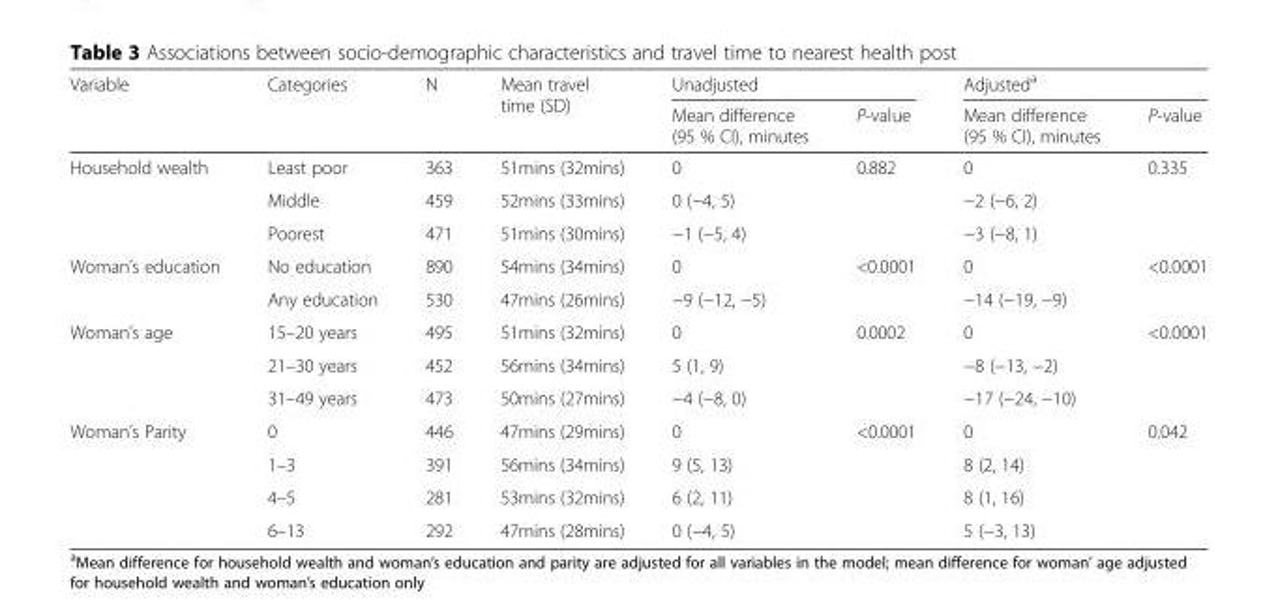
<table><thead><tr><td rowspan="2">Variable</td><td rowspan="2">Categories</td><td rowspan="2">N</td><td rowspan="2">Mean travel time (SD)</td><td colspan="2">Unadjusted</td><td colspan="2">Adjusted<sup>a</sup></td></tr><tr><td>Mean difference (95 % CI), minutes</td><td>P-value</td><td>Mean difference (95 % CI), minutes</td><td>P-value</td></tr></thead><tbody><tr><td rowspan="3">Household wealth</td><td>Least poor</td><td>363</td><td>51mins (32mins)</td><td>0</td><td rowspan="3">0.882</td><td>0</td><td rowspan="3">0.335</td></tr><tr><td>Middle</td><td>459</td><td>52mins (33mins)</td><td>0 (−4, 5)</td><td>−2 (−6, 2)</td></tr><tr><td>Poorest</td><td>471</td><td>51mins (30mins)</td><td>−1 (−5, 4)</td><td>−3 (−8, 1)</td></tr><tr><td rowspan="2">Woman’s education</td><td>No education</td><td>890</td><td>54mins (34mins)</td><td>0</td><td rowspan="2">&lt;0.0001</td><td>0</td><td rowspan="2">&lt;0.0001</td></tr><tr><td>Any education</td><td>530</td><td>47mins (26mins)</td><td>−9 (−12, −5)</td><td>−14 (−19, −9)</td></tr><tr><td rowspan="3">Woman’s age</td><td>15–20 years</td><td>495</td><td>51mins (32mins)</td><td>0</td><td rowspan="3">0.0002</td><td>0</td><td rowspan="3">&lt;0.0001</td></tr><tr><td>21–30 years</td><td>452</td><td>56mins (34mins)</td><td>5 (1, 9)</td><td>−8 (−13, −2)</td></tr><tr><td>31–49 years</td><td>473</td><td>50mins (27mins)</td><td>−4 (−8, 0)</td><td>−17 (−24, −10)</td></tr><tr><td rowspan="4">Woman’s Parity</td><td>0</td><td>446</td><td>47mins (29mins)</td><td>0</td><td rowspan="4">&lt;0.0001</td><td>0</td><td rowspan="4">0.042</td></tr><tr><td>1–3</td><td>391</td><td>56mins (34mins)</td><td>9 (5, 13)</td><td>8 (2, 14)</td></tr><tr><td>4–5</td><td>281</td><td>53mins (32mins)</td><td>6 (2, 11)</td><td>8 (1, 16)</td></tr><tr><td>6–13</td><td>292</td><td>47mins (28mins)</td><td>0 (−4, 5)</td><td>5 (−3, 13)</td></tr></tbody></table>